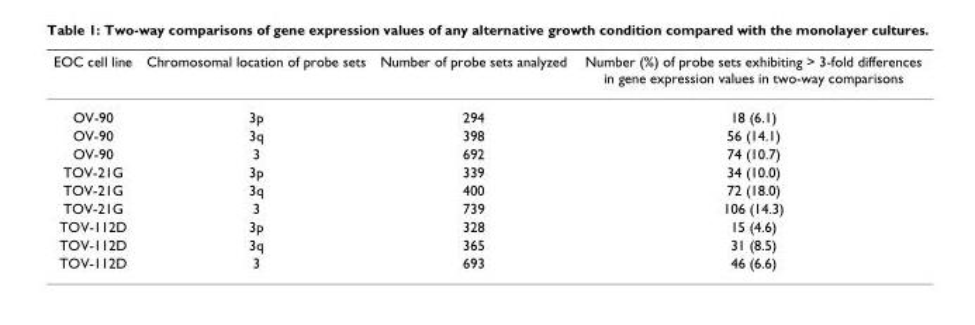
<table><thead><tr><td>EOC cell line</td><td>Chromosomal location of probe sets</td><td>Number of probe sets analyzed</td><td>Number (%) of probe sets exhibiting &gt; 3-fold differences in gene expression values in two-way comparisons</td></tr></thead><tbody><tr><td>OV-90</td><td>3p</td><td>294</td><td>18 (6.1)</td></tr><tr><td>OV-90</td><td>3q</td><td>398</td><td>56 (14.1)</td></tr><tr><td>OV-90</td><td>3</td><td>692</td><td>74 (10.7)</td></tr><tr><td>TOV-21G</td><td>3p</td><td>339</td><td>34 (10.0)</td></tr><tr><td>TOV-21G</td><td>3q</td><td>400</td><td>72 (18.0)</td></tr><tr><td>TOV-21G</td><td>3</td><td>739</td><td>106 (14.3)</td></tr><tr><td>TOV-112D</td><td>3p</td><td>328</td><td>15 (4.6)</td></tr><tr><td>TOV-112D</td><td>3q</td><td>365</td><td>31 (8.5)</td></tr><tr><td>TOV-112D</td><td>3</td><td>693</td><td>46 (6.6)</td></tr></tbody></table>